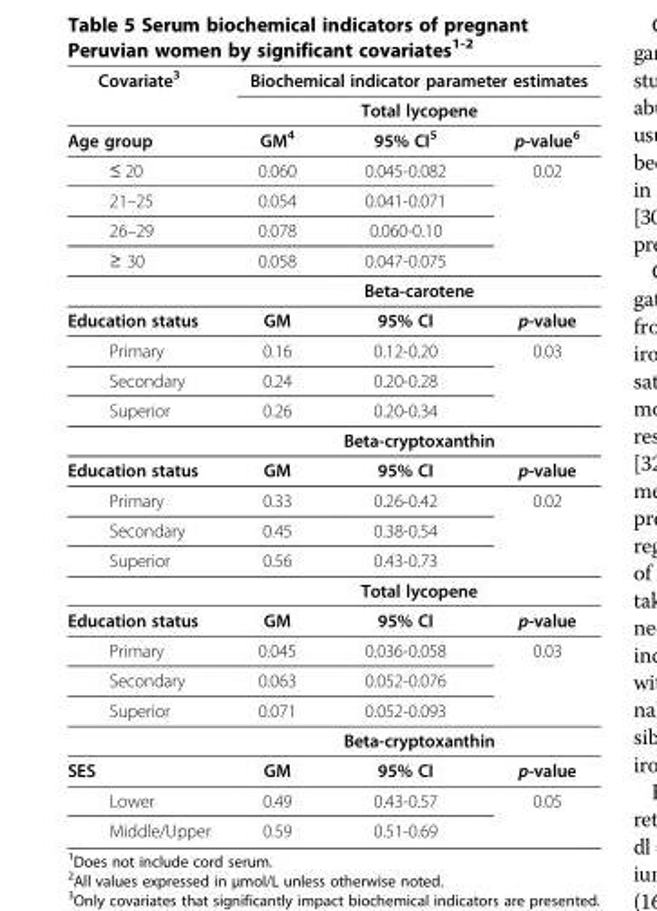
<table><thead><tr><td rowspan="3">Covariate<sup>3</sup> Age group</td><td rowspan="2" colspan="3">Biochemical indicator parameter estimates Total lycopene</td></tr><tr></tr><tr><td>GM<sup>4</sup></td><td>95% CI<sup>5</sup></td><td>p-value<sup>6</sup></td></tr></thead><tbody><tr><td>≤ 20</td><td>0.060</td><td>0.045-0.082</td><td rowspan="4">0.02</td></tr><tr><td>21–25</td><td>0.054</td><td>0.041-0.071</td></tr><tr><td>26–29</td><td>0.078</td><td>0.060-0.10</td></tr><tr><td rowspan="2">≥ 30</td><td>0.058</td><td>0.047-0.075</td></tr><tr><td colspan="3">Beta-carotene</td></tr><tr><td>Education status</td><td>GM</td><td>95% CI</td><td>p-value</td></tr><tr><td>Primary</td><td>0.16</td><td>0.12-0.20</td><td>0.03</td></tr><tr><td>Secondary</td><td>0.24</td><td>0.20-0.28</td><td></td></tr><tr><td rowspan="2">Superior</td><td>0.26</td><td>0.20-0.34</td><td></td></tr><tr><td colspan="3">Beta-cryptoxanthin</td></tr><tr><td>Education status</td><td>GM</td><td>95% CI</td><td>p-value</td></tr><tr><td>Primary</td><td>0.33</td><td>0.26-0.42</td><td rowspan="3">0.02</td></tr><tr><td>Secondary</td><td>0.45</td><td>0.38-0.54</td></tr><tr><td rowspan="2">Superior</td><td>0.56</td><td>0.43-0.73</td></tr><tr><td colspan="3">Total lycopene</td></tr><tr><td>Education status</td><td>GM</td><td>95% CI</td><td>p-value</td></tr><tr><td>Primary</td><td>0.045</td><td>0.036-0.058</td><td>0.03</td></tr><tr><td>Secondary</td><td>0.063</td><td>0.052-0.076</td><td></td></tr><tr><td rowspan="2">Superior</td><td>0.071</td><td>0.052-0.093</td><td></td></tr><tr><td colspan="3">Beta-cryptoxanthin</td></tr><tr><td>SES</td><td>GM</td><td>95% CI</td><td>p-value</td></tr><tr><td>Lower</td><td>0.49</td><td>0.43-0.57</td><td rowspan="2">0.05</td></tr><tr><td>Middle/Upper</td><td>0.59</td><td>0.51-0.69</td></tr></tbody></table>